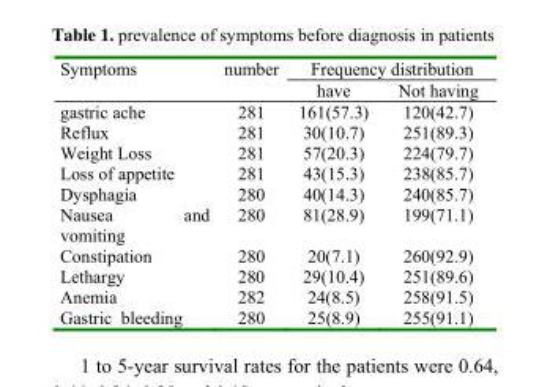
<table><thead><tr><td rowspan="2">Symptoms</td><td rowspan="2">number</td><td colspan="2">Frequency distribution</td></tr><tr><td>have</td><td>Not having</td></tr></thead><tbody><tr><td>gastric ache</td><td>281</td><td>161(57.3)</td><td>120(42.7)</td></tr><tr><td>Reflux</td><td>281</td><td>30(10.7)</td><td>251(89.3)</td></tr><tr><td>Weight Loss</td><td>281</td><td>57(20.3)</td><td>224(79.7)</td></tr><tr><td>Loss of appetite</td><td>281</td><td>43(15.3)</td><td>238(85.7)</td></tr><tr><td>Dysphagia</td><td>280</td><td>40(14.3)</td><td>240(85.7)</td></tr><tr><td>Nausea and vomiting</td><td>280</td><td>81(28.9)</td><td>199(71.1)</td></tr><tr><td>Constipation</td><td>280</td><td>20(7.1)</td><td>260(92.9)</td></tr><tr><td>Lethargy</td><td>280</td><td>29(10.4)</td><td>251(89.6)</td></tr><tr><td>Anemia</td><td>282</td><td>24(8.5)</td><td>258(91.5)</td></tr><tr><td>Gastric bleeding</td><td>280</td><td>25(8.9)</td><td>255(91.1)</td></tr></tbody></table>